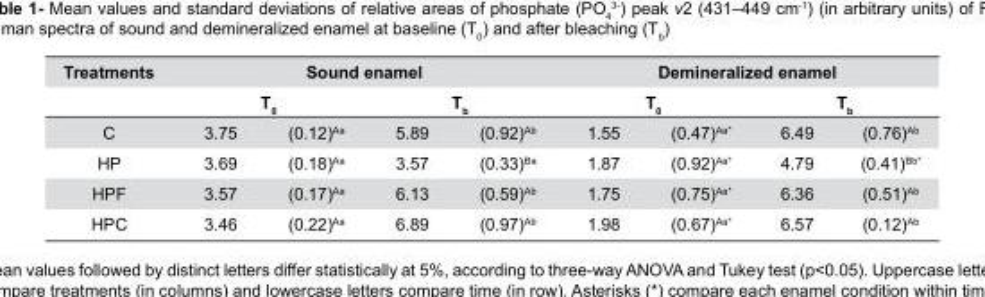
<table><thead><tr><td rowspan="3">Treatments C</td><td colspan="4">Sound enamel</td><td colspan="4">Demineralized enamel</td></tr><tr><td colspan="2"><sup>T</sup><sub>0</sub></td><td colspan="2"><sup>T</sup>b</td><td colspan="2"><sup>T</sup><sub>0</sub></td><td colspan="2"><sup>T</sup>b</td></tr><tr><td>3.75</td><td>(0.12)<sup>Aa</sup></td><td>5.89</td><td>(0.92)<sup>Ab</sup></td><td>1.55</td><td>(0.47)<sup>Aa</sup>*</td><td>6.49</td><td>(0.76)<sup>Ab</sup></td></tr></thead><tbody><tr><td>HP</td><td>3.69</td><td>(0.18)<sup>Aa</sup></td><td>3.57</td><td>(0.33)<sup>Ba</sup></td><td>1.87</td><td>(0.92)<sup>Aa</sup>*</td><td>4.79</td><td>(0.41)<sup>Bb</sup>*</td></tr><tr><td>HPF</td><td>3.57</td><td>(0.17)<sup>Aa</sup></td><td>6.13</td><td>(0.59)<sup>Ab</sup></td><td>1.75</td><td>(0.75)<sup>Aa</sup>*</td><td>6.36</td><td>(0.51)<sup>Ab</sup></td></tr><tr><td>HPC</td><td>3.46</td><td>(0.22)<sup>Aa</sup></td><td>6.89</td><td>(0.97)<sup>Ab</sup></td><td>1.98</td><td>(0.67)<sup>Aa</sup>*</td><td>6.57</td><td>(0.12)<sup>Ab</sup></td></tr></tbody></table>